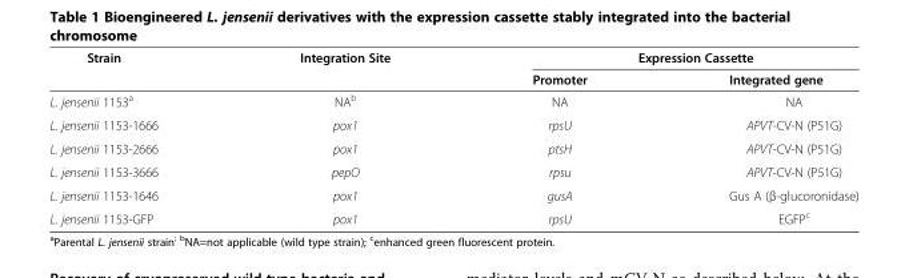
<table><thead><tr><td rowspan="2">Strain</td><td rowspan="2">Integration Site</td><td colspan="2">Expression Cassette</td></tr><tr><td>Promoter</td><td>Integrated gene</td></tr></thead><tbody><tr><td>L. jensenii 1153<sup>a</sup></td><td>NA<sup>b</sup></td><td>NA</td><td>NA</td></tr><tr><td>L. jensenii 1153-1666</td><td>pox1</td><td>rpsU</td><td>APVT-CV-N (P51G)</td></tr><tr><td>L. jensenii 1153-2666</td><td>pox1</td><td>ptsH</td><td>APVT-CV-N (P51G)</td></tr><tr><td>L. jensenii 1153-3666</td><td>pepO</td><td>rpsu</td><td>APVT-CV-N (P51G)</td></tr><tr><td>L. jensenii 1153-1646</td><td>pox1</td><td>gusA</td><td>Gus A (β-glucoronidase)</td></tr><tr><td>L. jensenii 1153-GFP</td><td>pox1</td><td>rpsU</td><td>EGFP<sup>c</sup></td></tr></tbody></table>